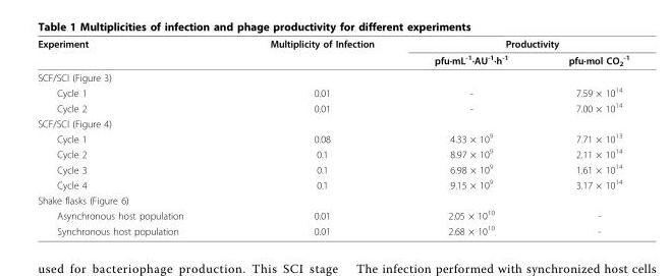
<table><thead><tr><td rowspan="2">Experiment</td><td rowspan="2">Multiplicity of Infection</td><td colspan="2">Productivity</td></tr><tr><td>pfu·mL<sup>-1</sup>·AU<sup>-1</sup>·h<sup>-1</sup></td><td>pfu·mol CO<sub>2</sub> <sup>-1</sup></td></tr></thead><tbody><tr><td colspan="4">SCF/SCI (Figure 3)</td></tr><tr><td>Cycle 1</td><td>0.01</td><td>-</td><td>7.59 × 10<sup>14</sup></td></tr><tr><td>Cycle 2</td><td>0.01</td><td>-</td><td>7.00 × 10<sup>14</sup></td></tr><tr><td colspan="4">SCF/SCI (Figure 4)</td></tr><tr><td>Cycle 1</td><td>0.08</td><td>4.33 × 10<sup>9</sup></td><td>7.71 × 10<sup>13</sup></td></tr><tr><td>Cycle 2</td><td>0.1</td><td>8.97 × 10<sup>9</sup></td><td>2.11 × 10<sup>14</sup></td></tr><tr><td>Cycle 3</td><td>0.1</td><td>6.98 × 10<sup>9</sup></td><td>1.61 × 10<sup>14</sup></td></tr><tr><td>Cycle 4</td><td>0.1</td><td>9.15 × 10<sup>9</sup></td><td>3.17 × 10<sup>14</sup></td></tr><tr><td colspan="4">Shake flasks (Figure 6)</td></tr><tr><td>Asynchronous host population</td><td>0.01</td><td>2.05 × 10<sup>10</sup></td><td>-</td></tr><tr><td>Synchronous host population</td><td>0.01</td><td>2.68 × 10<sup>10</sup></td><td>-</td></tr></tbody></table>